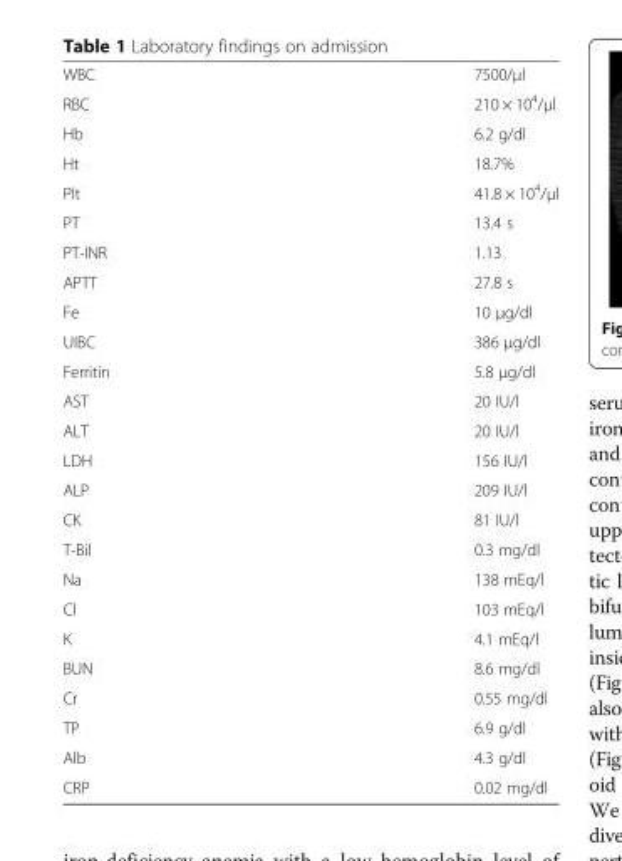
<table><tbody><tr><td>WBC</td><td>7500/μl</td></tr><tr><td>RBC</td><td>210 × 10<sup>4</sup>/μl</td></tr><tr><td>Hb</td><td>6.2 g/dl</td></tr><tr><td>Ht</td><td>18.7%</td></tr><tr><td>Plt</td><td>41.8 × 10<sup>4</sup>/μl</td></tr><tr><td>PT</td><td>13.4 s</td></tr><tr><td>PT-INR</td><td>1.13</td></tr><tr><td>APTT</td><td>27.8 s</td></tr><tr><td>Fe</td><td>10 μg/dl</td></tr><tr><td>UIBC</td><td>386 μg/dl</td></tr><tr><td>Ferritin</td><td>5.8 μg/dl</td></tr><tr><td>AST</td><td>20 IU/l</td></tr><tr><td>ALT</td><td>20 IU/l</td></tr><tr><td>LDH</td><td>156 IU/l</td></tr><tr><td>ALP</td><td>209 IU/l</td></tr><tr><td>CK</td><td>81 IU/l</td></tr><tr><td>T-Bil</td><td>0.3 mg/dl</td></tr><tr><td>Na</td><td>138 mEq/l</td></tr><tr><td>Cl</td><td>103 mEq/l</td></tr><tr><td>K</td><td>4.1 mEq/l</td></tr><tr><td>BUN</td><td>8.6 mg/dl</td></tr><tr><td>Cr</td><td>0.55 mg/dl</td></tr><tr><td>TP</td><td>6.9 g/dl</td></tr><tr><td>Alb</td><td>4.3 g/dl</td></tr><tr><td>CRP</td><td>0.02 mg/dl</td></tr></tbody></table>